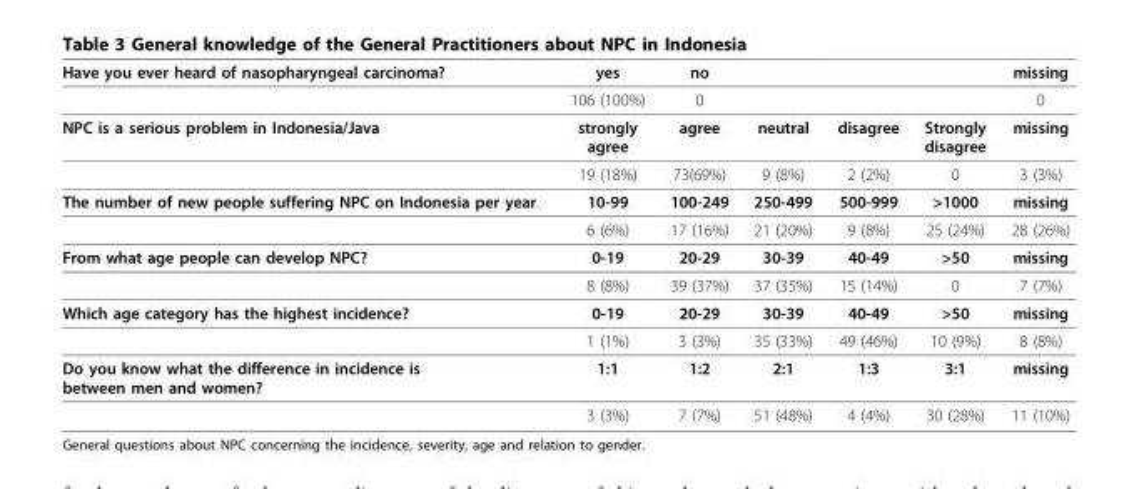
<table><thead><tr><td>Have you ever heard of nasopharyngeal carcinoma?</td><td>yes</td><td>no</td><td></td><td></td><td></td><td>missing</td></tr></thead><tbody><tr><td></td><td>106 (100%)</td><td>0</td><td></td><td></td><td></td><td>0</td></tr><tr><td rowspan="2">NPC is a serious problem in Indonesia/Java</td><td>strongly agree</td><td>agree</td><td>neutral</td><td>disagree</td><td>Strongly disagree</td><td>missing</td></tr><tr><td>19 (18%)</td><td>73(69%)</td><td>9 (8%)</td><td>2 (2%)</td><td>0</td><td>3 (3%)</td></tr><tr><td rowspan="2">The number of new people suffering NPC on Indonesia per year.</td><td>10-99</td><td>100-249</td><td>250-499</td><td>500-999</td><td>&gt;1000</td><td>missing</td></tr><tr><td>6 (6%)</td><td>17 (16%)</td><td>21 (20%)</td><td>9 (8%)</td><td>25 (24%)</td><td>28 (26%)</td></tr><tr><td rowspan="2">From what age people can develop NPC?</td><td>0-19</td><td>20-29</td><td>30-39</td><td>40-49</td><td>&gt;50</td><td>missing</td></tr><tr><td>8 (8%)</td><td>39 (37%)</td><td>37 (35%)</td><td>15 (14%)</td><td>0</td><td>7 (7%)</td></tr><tr><td rowspan="2">Which age category has the highest incidence?</td><td>0-19</td><td>20-29</td><td>30-39</td><td>40-49</td><td>&gt;50</td><td>missing</td></tr><tr><td>1 (1%)</td><td>3 (3%)</td><td>35 (33%)</td><td>49 (46%)</td><td>10 (9%)</td><td>8 (8%)</td></tr><tr><td rowspan="2">Do you know what the difference in incidence is between men and women?</td><td>1:1</td><td>1:2</td><td>2:1</td><td>1:3</td><td>3:1</td><td>missing</td></tr><tr><td>3 (3%)</td><td>7 (7%)</td><td>51 (48%)</td><td>4 (4%)</td><td>30 (28%)</td><td>11 (10%)</td></tr></tbody></table>